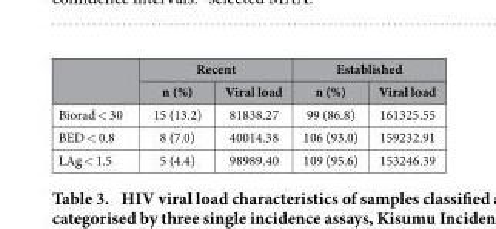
<table><thead><tr><td rowspan="2"></td><td colspan="2">Recent</td><td colspan="2">Established</td></tr><tr><td>n (%)</td><td>Viral load</td><td>n (%)</td><td>Viral load</td></tr></thead><tbody><tr><td>Biorad &lt; 30</td><td>15 (13.2)</td><td>81838.27</td><td>99 (86.8)</td><td>161325.55</td></tr><tr><td>BED &lt; 0.8</td><td>8 (7.0)</td><td>40014.38</td><td>106 (93.0)</td><td>159232.91</td></tr><tr><td>LAg &lt; 1.5</td><td>5 (4.4)</td><td>98989.40</td><td>109 (95.6)</td><td>153246.39</td></tr></tbody></table>